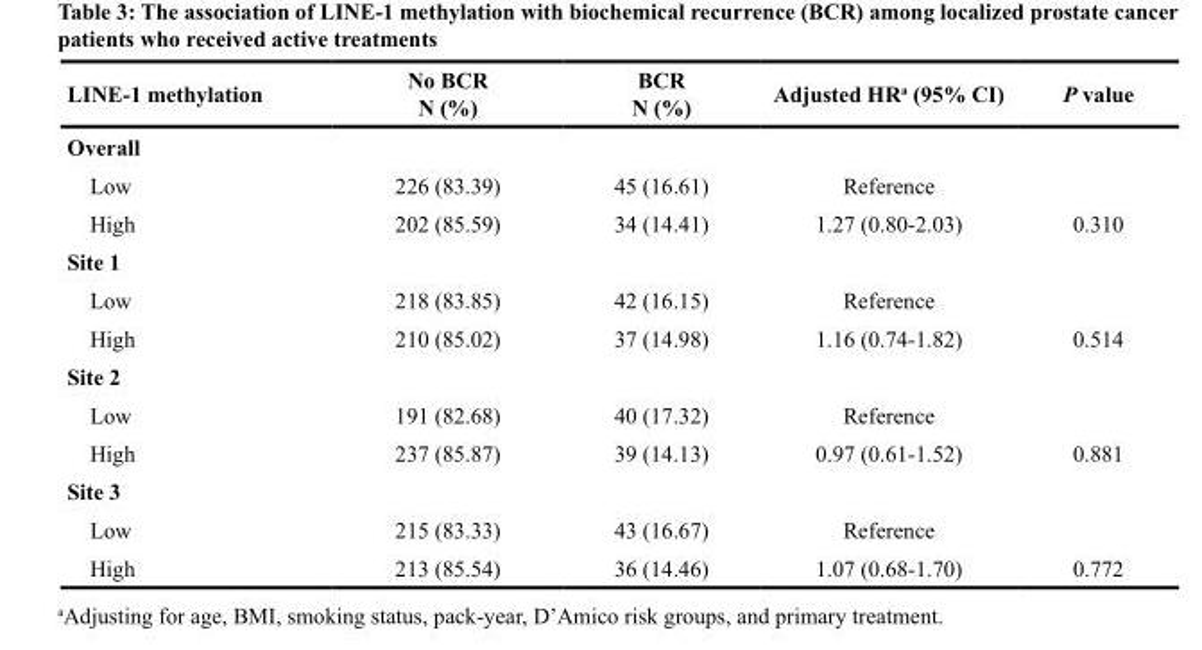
<table><thead><tr><td>LINE-1 methylation</td><td>No BCR N (%)</td><td>BCR N (%)</td><td>Adjusted HR<sup>a</sup> (95% CI)</td><td>P value</td></tr></thead><tbody><tr><td colspan="5">Overall</td></tr><tr><td>Low</td><td>226 (83.39)</td><td>45 (16.61)</td><td>Reference</td><td></td></tr><tr><td>High</td><td>202 (85.59)</td><td>34 (14.41)</td><td>1.27 (0.80-2.03)</td><td>0.310</td></tr><tr><td colspan="5">Site 1</td></tr><tr><td>Low</td><td>218 (83.85)</td><td>42 (16.15)</td><td>Reference</td><td></td></tr><tr><td>High</td><td>210 (85.02)</td><td>37 (14.98)</td><td>1.16 (0.74-1.82)</td><td>0.514</td></tr><tr><td colspan="5">Site 2</td></tr><tr><td>Low</td><td>191 (82.68)</td><td>40 (17.32)</td><td>Reference</td><td></td></tr><tr><td>High</td><td>237 (85.87)</td><td>39 (14.13)</td><td>0.97 (0.61-1.52)</td><td>0.881</td></tr><tr><td colspan="5">Site 3</td></tr><tr><td>Low</td><td>215 (83.33)</td><td>43 (16.67)</td><td>Reference</td><td></td></tr><tr><td>High</td><td>213 (85.54)</td><td>36 (14.46)</td><td>1.07 (0.68-1.70)</td><td>0.772</td></tr></tbody></table>